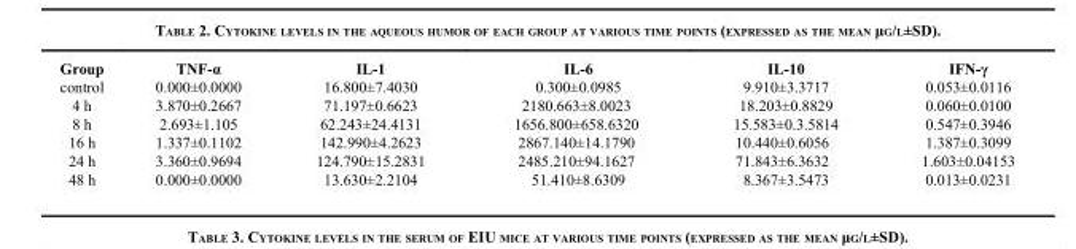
<table><thead><tr><td>Group</td><td>TNF-α</td><td>IL-1</td><td>IL-6</td><td>IL-10</td><td>IFN-γ</td></tr></thead><tbody><tr><td>control</td><td>0.000±0.0000</td><td>16.800±7.4030</td><td>0.300±0.0985</td><td>9.910±3.3717</td><td>0.053±0.0116</td></tr><tr><td>4 h</td><td>3.870±0.2667</td><td>71.197±0.6623</td><td>2180.663±8.0023</td><td>18.203±0.8829</td><td>0.060±0.0100</td></tr><tr><td>8 h</td><td>2.693±1.105</td><td>62.243±24.4131</td><td>1656.800±658.6320</td><td>15.583±0.3.5814</td><td>0.547±0.3946</td></tr><tr><td>16 h</td><td>1.337±0.1102</td><td>142.990±4.2623</td><td>2867.140±14.1790</td><td>10.440±0.6056</td><td>1.387±0.3099</td></tr><tr><td>24 h</td><td>3.360±0.9694</td><td>124.790±15.2831</td><td>2485.210±94.1627</td><td>71.843±6.3632</td><td>1.603±0.04153</td></tr><tr><td>48 h</td><td>0.000±0.0000</td><td>13.630±2.2104</td><td>51.410±8.6309</td><td>8.367±3.5473</td><td>0.013±0.0231</td></tr></tbody></table>